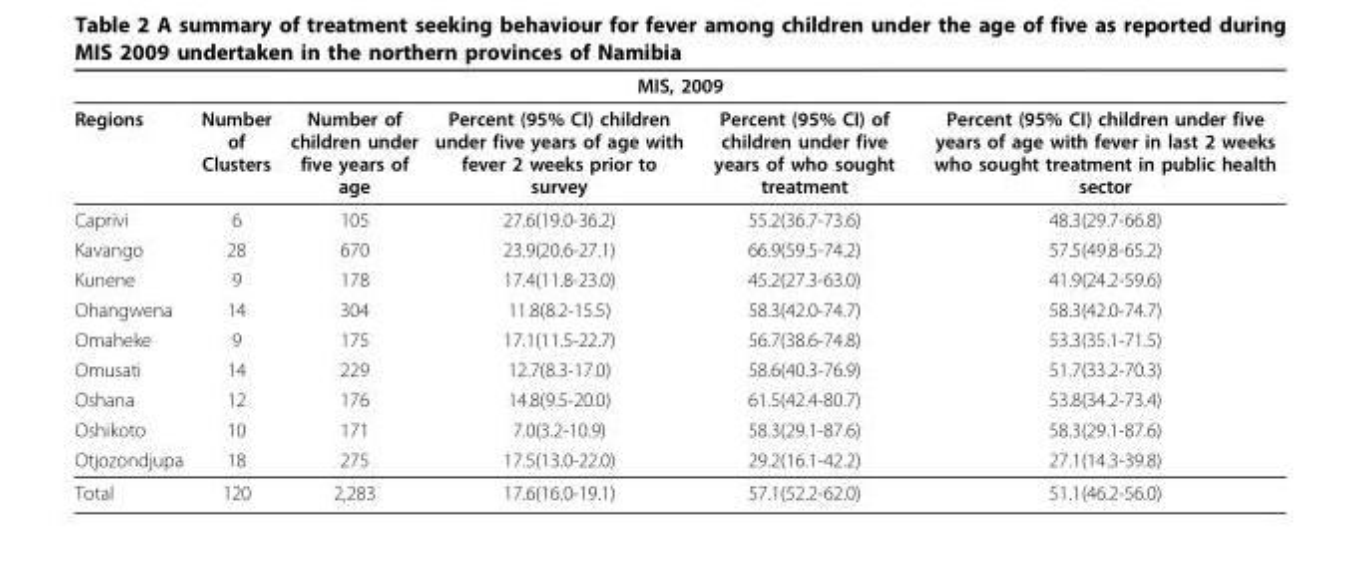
<table><thead><tr><td colspan="6">MIS, 2009</td></tr><tr><td>Regions</td><td>Number of Clusters</td><td>Number of children under five years of age</td><td>Percent (95% CI) children under five years of age with fever 2 weeks prior to survey</td><td>Percent (95% CI) of children under five years of who sought treatment</td><td>Percent (95% CI) children under five years of age with fever in last 2 weeks who sought treatment in public health sector</td></tr></thead><tbody><tr><td>Caprivi</td><td>6</td><td>105</td><td>27.6(19.0-36.2)</td><td>55.2(36.7-73.6)</td><td>48.3(29.7-66.8)</td></tr><tr><td>Kavango</td><td>28</td><td>670</td><td>23.9(20.6-27.1)</td><td>66.9(59.5-74.2)</td><td>57.5(49.8-65.2)</td></tr><tr><td>Kunene</td><td>9</td><td>178</td><td>17.4(11.8-23.0)</td><td>45.2(27.3-63.0)</td><td>41.9(24.2-59.6)</td></tr><tr><td>Ohangwena</td><td>14</td><td>304</td><td>11.8(8.2-15.5)</td><td>58.3(42.0-74.7)</td><td>58.3(42.0-74.7)</td></tr><tr><td>Omaheke</td><td>9</td><td>175</td><td>17.1(11.5-22.7)</td><td>56.7(38.6-74.8)</td><td>53.3(35.1-71.5)</td></tr><tr><td>Omusati</td><td>14</td><td>229</td><td>12.7(8.3-17.0)</td><td>58.6(40.3-76.9)</td><td>51.7(33.2-70.3)</td></tr><tr><td>Oshana</td><td>12</td><td>176</td><td>14.8(9.5-20.0)</td><td>61.5(42.4-80.7)</td><td>53.8(34.2-73.4)</td></tr><tr><td>Oshikoto</td><td>10</td><td>171</td><td>7.0(3.2-10.9)</td><td>58.3(29.1-87.6)</td><td>58.3(29.1-87.6)</td></tr><tr><td>Otjozondjupa</td><td>18</td><td>275</td><td>17.5(13.0-22.0)</td><td>29.2(16.1-42.2)</td><td>27.1(14.3-39.8)</td></tr><tr><td>Total</td><td>120</td><td>2,283</td><td>17.6(16.0-19.1)</td><td>57.1(52.2-62.0)</td><td>51.1(46.2-56.0)</td></tr></tbody></table>